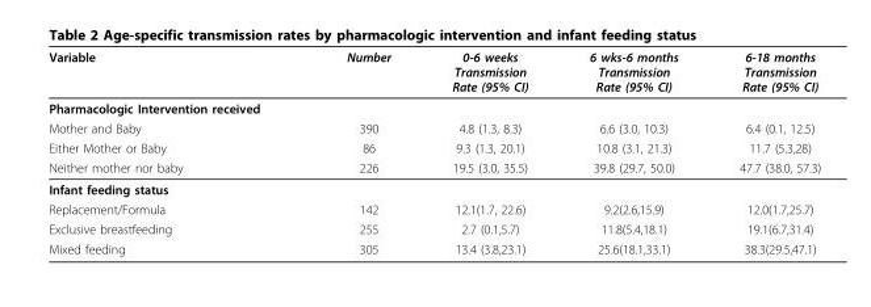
<table><thead><tr><td>Variable</td><td>Number</td><td>0-6 weeks Transmission Rate (95% CI)</td><td>6 wks-6 months Transmission Rate (95% CI)</td><td>6-18 months Transmission Rate (95% CI)</td></tr></thead><tbody><tr><td colspan="5">Pharmacologic Intervention received</td></tr><tr><td>Mother and Baby</td><td>390</td><td>4.8 (1.3, 8.3)</td><td>6.6 (3.0, 10.3)</td><td>6.4 (0.1, 12.5)</td></tr><tr><td>Either Mother or Baby</td><td>86</td><td>9.3 (1.3, 20.1)</td><td>10.8 (3.1, 21.3)</td><td>11.7 (5.3,28)</td></tr><tr><td>Neither mother nor baby</td><td>226</td><td>19.5 (3.0, 35.5)</td><td>39.8 (29.7, 50.0)</td><td>47.7 (38.0, 57.3)</td></tr><tr><td colspan="5">Infant feeding status</td></tr><tr><td>Replacement/Formula</td><td>142</td><td>12.1(1.7, 22.6)</td><td>9.2(2.6,15.9)</td><td>12.0(1.7,25.7)</td></tr><tr><td>Exclusive breastfeeding</td><td>255</td><td>2.7 (0.1,5.7)</td><td>11.8(5.4,18.1)</td><td>19.1(6.7,31.4)</td></tr><tr><td>Mixed feeding</td><td>305</td><td>13.4 (3.8,23.1)</td><td>25.6(18.1,33.1)</td><td>38.3(29.5,47.1)</td></tr></tbody></table>